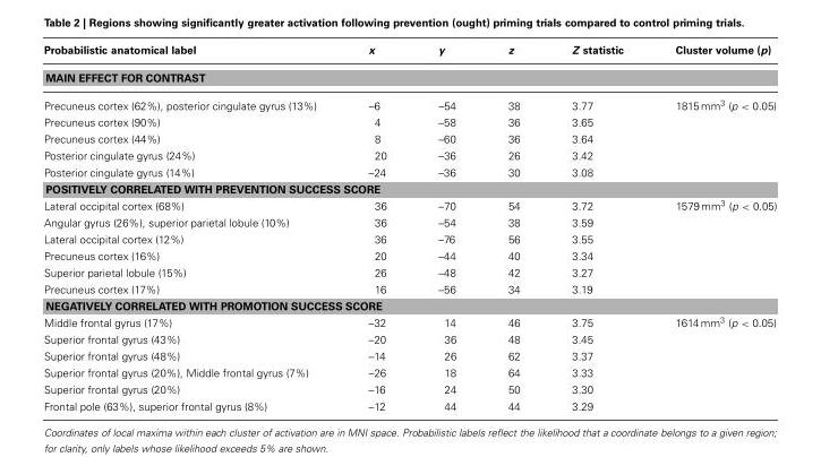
<table><thead><tr><td>Probabilistic anatomical label</td><td>x</td><td>y</td><td>z</td><td>Z statistic</td><td>Cluster volume (p)</td></tr></thead><tbody><tr><td colspan="6">MAIN EFFECT FOR CONTRAST</td></tr><tr><td>Precuneus cortex (62%), posterior cingulate gyrus (13%)</td><td>–6</td><td>–54</td><td>38</td><td>3.77</td><td>1815mm<sup>3</sup> (p &lt; 0.05)</td></tr><tr><td>Precuneus cortex (90%)</td><td>4</td><td>–58</td><td>36</td><td>3.65</td><td></td></tr><tr><td>Precuneus cortex (44%)</td><td>8</td><td>–60</td><td>36</td><td>3.64</td><td></td></tr><tr><td>Posterior cingulate gyrus (24%)</td><td>20</td><td>–36</td><td>26</td><td>3.42</td><td></td></tr><tr><td>Posterior cingulate gyrus (14%)</td><td>–24</td><td>–36</td><td>30</td><td>3.08</td><td></td></tr><tr><td colspan="6">POSITIVELY CORRELATED WITH PREVENTION SUCCESS SCORE</td></tr><tr><td>Lateral occipital cortex (68%)</td><td>36</td><td>–70</td><td>54</td><td>3.72</td><td>1579mm<sup>3</sup> (p &lt; 0.05)</td></tr><tr><td>Angular gyrus (26%), superior parietal lobule (10%)</td><td>36</td><td>–54</td><td>38</td><td>3.59</td><td></td></tr><tr><td>Lateral occipital cortex (12%)</td><td>36</td><td>–76</td><td>56</td><td>3.55</td><td></td></tr><tr><td>Precuneus cortex (16%)</td><td>20</td><td>–44</td><td>40</td><td>3.34</td><td></td></tr><tr><td>Superior parietal lobule (15%)</td><td>26</td><td>–48</td><td>42</td><td>3.27</td><td></td></tr><tr><td>Precuneus cortex (17%)</td><td>16</td><td>–56</td><td>34</td><td>3.19</td><td></td></tr><tr><td colspan="6">NEGATIVELY CORRELATED WITH PROMOTION SUCCESS SCORE</td></tr><tr><td>Middle frontal gyrus (17%)</td><td>–32</td><td>14</td><td>46</td><td>3.75</td><td>1614mm<sup>3</sup> (p &lt; 0.05)</td></tr><tr><td>Superior frontal gyrus (43%)</td><td>–20</td><td>36</td><td>48</td><td>3.45</td><td></td></tr><tr><td>Superior frontal gyrus (48%)</td><td>–14</td><td>26</td><td>62</td><td>3.37</td><td></td></tr><tr><td>Superior frontal gyrus (20%), Middle frontal gyrus (7%)</td><td>–26</td><td>18</td><td>64</td><td>3.33</td><td></td></tr><tr><td>Superior frontal gyrus (20%)</td><td>–16</td><td>24</td><td>50</td><td>3.30</td><td></td></tr><tr><td>Frontal pole (63%), superior frontal gyrus (8%)</td><td>–12</td><td>44</td><td>44</td><td>3.29</td><td></td></tr></tbody></table>